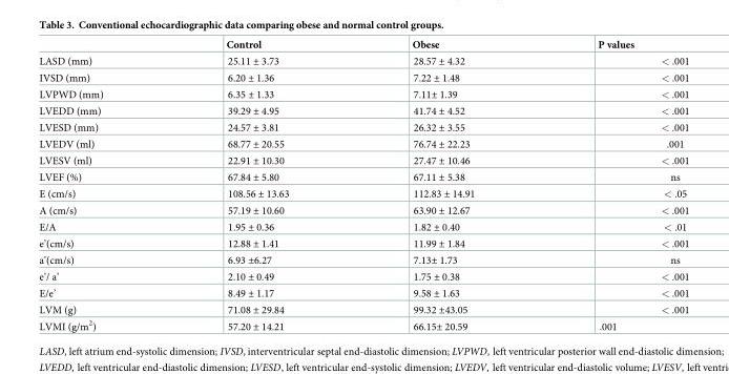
<table><thead><tr><td></td><td>Control</td><td>Obese</td><td>P values</td></tr></thead><tbody><tr><td>LASD (mm)</td><td>25.11 ± 3.73</td><td>28.57 ± 4.32</td><td>&lt; .001</td></tr><tr><td>IVSD (mm)</td><td>6.20 ± 1.36</td><td>7.22 ± 1.48</td><td>&lt; .001</td></tr><tr><td>LVPWD (mm)</td><td>6.35 ± 1.33</td><td>7.11± 1.39</td><td>&lt; .001</td></tr><tr><td>LVEDD (mm)</td><td>39.29 ± 4.95</td><td>41.74 ± 4.52</td><td>&lt; .001</td></tr><tr><td>LVESD (mm)</td><td>24.57 ± 3.81</td><td>26.32 ± 3.55</td><td>&lt; .001</td></tr><tr><td>LVEDV (ml)</td><td>68.77 ± 20.55</td><td>76.74 ± 22.23</td><td>.001</td></tr><tr><td>LVESV (ml)</td><td>22.91 ± 10.30</td><td>27.47 ± 10.46</td><td>&lt; .001</td></tr><tr><td>LVEF (%)</td><td>67.84 ± 5.80</td><td>67.11 ± 5.38</td><td>ns</td></tr><tr><td>E (cm/s)</td><td>108.56 ± 13.63</td><td>112.83 ± 14.91</td><td>&lt; .05</td></tr><tr><td>A (cm/s)</td><td>57.19 ± 10.60</td><td>63.90 ± 12.67</td><td>&lt; .001</td></tr><tr><td>E/A</td><td>1.95 ± 0.36</td><td>1.82 ± 0.40</td><td>&lt; .01</td></tr><tr><td>e’(cm/s)</td><td>12.88 ± 1.41</td><td>11.99 ± 1.84</td><td>&lt; .001</td></tr><tr><td>a’(cm/s)</td><td>6.93 ±6.27</td><td>7.13± 1.73</td><td>ns</td></tr><tr><td>e’/ a’</td><td>2.10 ± 0.49</td><td>1.75 ± 0.38</td><td>&lt; .001</td></tr><tr><td>E/e’</td><td>8.49 ± 1.17</td><td>9.58 ± 1.63</td><td>&lt; .001</td></tr><tr><td>LVM (g)</td><td>71.08 ± 29.84</td><td>99.32 ±43.05</td><td>&lt; .001</td></tr><tr><td>LVMI (g/m<sup>2</sup>)</td><td>57.20 ± 14.21</td><td>66.15± 20.59</td><td>.001</td></tr></tbody></table>